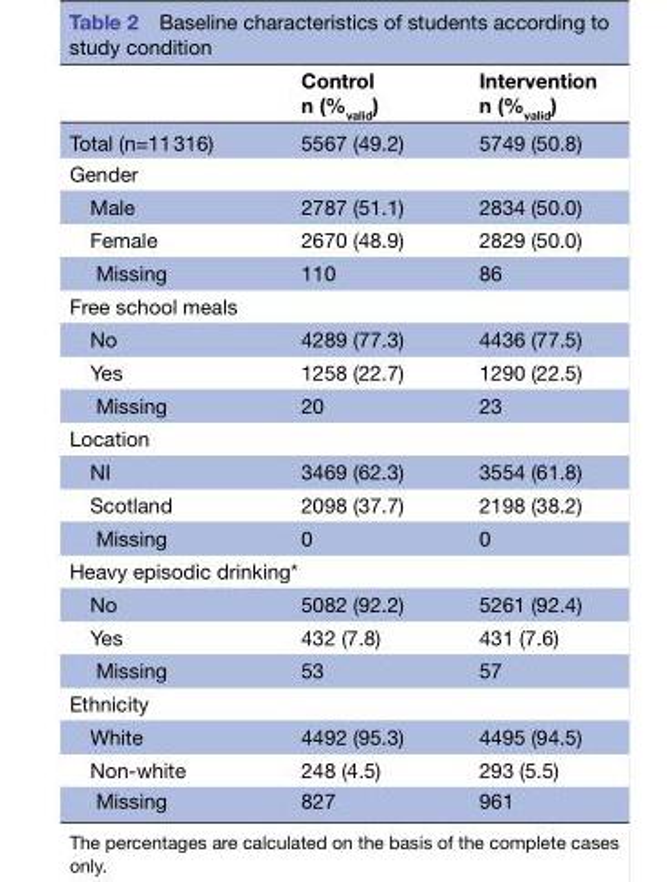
<table><thead><tr><td></td><td>Control n (%<sub>valid</sub>)</td><td>Intervention n (%<sub>valid</sub>)</td></tr></thead><tbody><tr><td>Total (n=11 316)</td><td>5567 (49.2)</td><td>5749 (50.8)</td></tr><tr><td colspan="3">Gender</td></tr><tr><td>Male</td><td>2787 (51.1)</td><td>2834 (50.0)</td></tr><tr><td>Female</td><td>2670 (48.9)</td><td>2829 (50.0)</td></tr><tr><td>Missing</td><td>110</td><td>86</td></tr><tr><td colspan="3">Free school meals</td></tr><tr><td>No</td><td>4289 (77.3)</td><td>4436 (77.5)</td></tr><tr><td>Yes</td><td>1258 (22.7)</td><td>1290 (22.5)</td></tr><tr><td>Missing</td><td>20</td><td>23</td></tr><tr><td colspan="3">Location</td></tr><tr><td>NI</td><td>3469 (62.3)</td><td>3554 (61.8)</td></tr><tr><td>Scotland</td><td>2098 (37.7)</td><td>2198 (38.2)</td></tr><tr><td>Missing</td><td>0</td><td>0</td></tr><tr><td colspan="3">Heavy episodic drinking*</td></tr><tr><td>No</td><td>5082 (92.2)</td><td>5261 (92.4)</td></tr><tr><td>Yes</td><td>432 (7.8)</td><td>431 (7.6)</td></tr><tr><td>Missing</td><td>53</td><td>57</td></tr><tr><td colspan="3">Ethnicity</td></tr><tr><td>White</td><td>4492 (95.3)</td><td>4495 (94.5)</td></tr><tr><td>Non-white</td><td>248 (4.5)</td><td>293 (5.5)</td></tr><tr><td>Missing</td><td>827</td><td>961</td></tr></tbody></table>